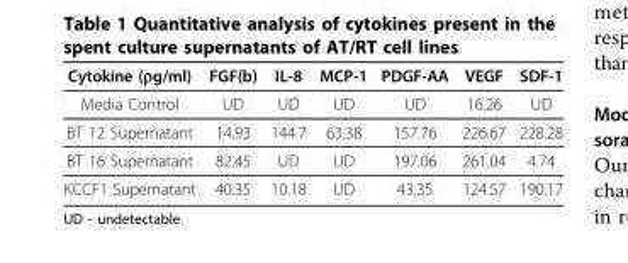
<table><thead><tr><td>Cytokine (ρg/ml)</td><td>FGF(b)</td><td>IL-8</td><td>MCP-1</td><td>PDGF-AA</td><td>VEGF</td><td>SDF-1</td></tr></thead><tbody><tr><td>Media Control</td><td>UD</td><td>UD</td><td>UD</td><td>UD</td><td>16.26</td><td>UD</td></tr><tr><td>BT 12 Supernatant</td><td>14.93</td><td>144.7</td><td>63.38</td><td>157.76</td><td>226.67</td><td>228.28</td></tr><tr><td>BT 16 Supernatant</td><td>82.45</td><td>UD</td><td>UD</td><td>197.06</td><td>261.04</td><td>4.74</td></tr><tr><td>KCCF1 Supernatant</td><td>40.35</td><td>10.18</td><td>UD</td><td>43.35</td><td>124.57</td><td>190.17</td></tr></tbody></table>